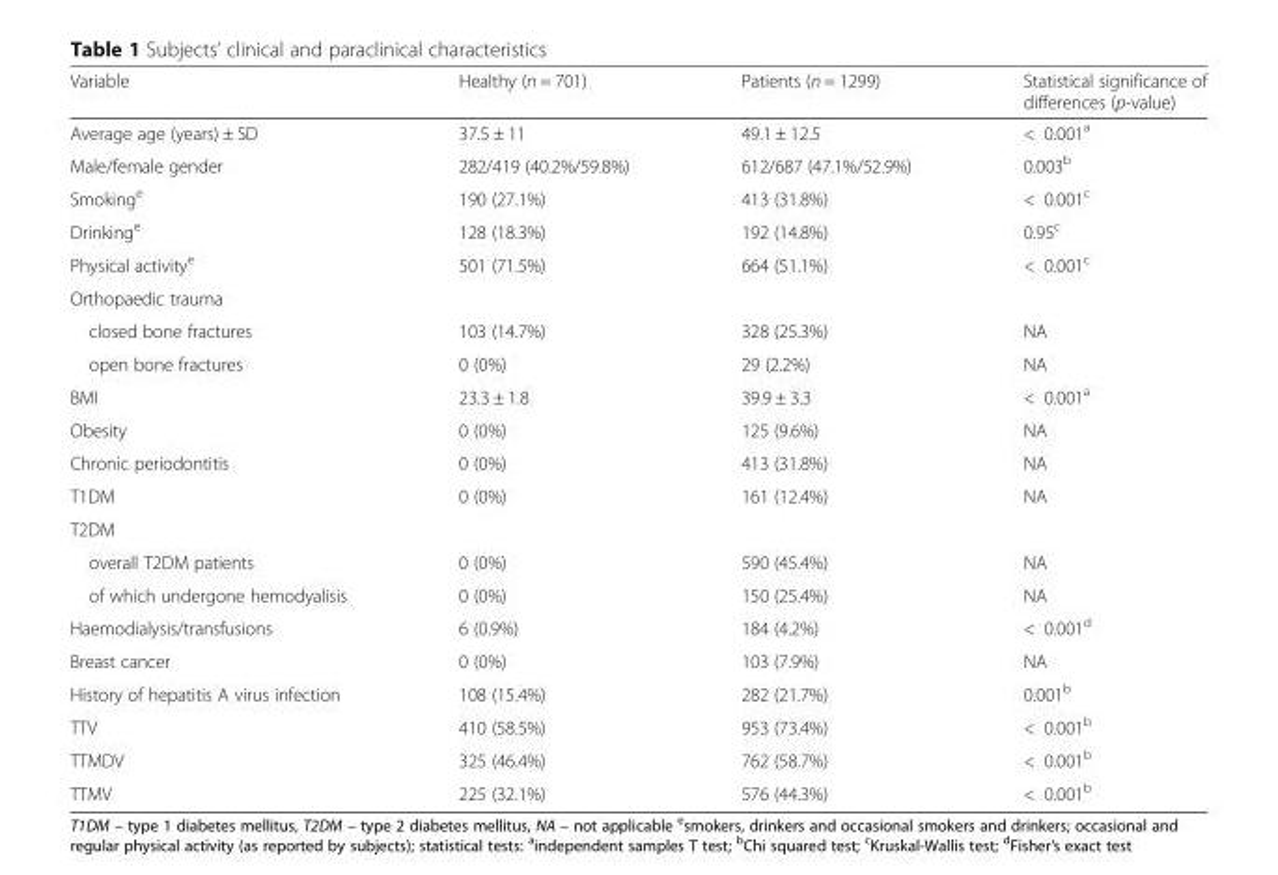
<table><thead><tr><td>Variable</td><td>Healthy (n = 701)</td><td>Patients (n = 1299)</td><td>Statistical significance of differences (p-value)</td></tr></thead><tbody><tr><td>Average age (years) ± SD</td><td>37.5 ± 11</td><td>49.1 ± 12.5</td><td>&lt; 0.001<sup>a</sup></td></tr><tr><td>Male/female gender</td><td>282/419 (40.2%/59.8%)</td><td>612/687 (47.1%/52.9%)</td><td>0.003<sup>b</sup></td></tr><tr><td>Smoking<sup>e</sup></td><td>190 (27.1%)</td><td>413 (31.8%)</td><td>&lt; 0.001<sup>c</sup></td></tr><tr><td>Drinking<sup>e</sup></td><td>128 (18.3%)</td><td>192 (14.8%)</td><td>0.95<sup>c</sup></td></tr><tr><td>Physical activity<sup>e</sup></td><td>501 (71.5%)</td><td>664 (51.1%)</td><td>&lt; 0.001<sup>c</sup></td></tr><tr><td colspan="4">Orthopaedic trauma</td></tr><tr><td>closed bone fractures</td><td>103 (14.7%)</td><td>328 (25.3%)</td><td>NA</td></tr><tr><td>open bone fractures</td><td>0 (0%)</td><td>29 (2.2%)</td><td>NA</td></tr><tr><td>BMI</td><td>23.3 ± 1.8</td><td>39.9 ± 3.3</td><td>&lt; 0.001<sup>a</sup></td></tr><tr><td>Obesity</td><td>0 (0%)</td><td>125 (9.6%)</td><td>NA</td></tr><tr><td>Chronic periodontitis</td><td>0 (0%)</td><td>413 (31.8%)</td><td>NA</td></tr><tr><td>T1DM</td><td>0 (0%)</td><td>161 (12.4%)</td><td>NA</td></tr><tr><td colspan="4">T2DM</td></tr><tr><td>overall T2DM patients</td><td>0 (0%)</td><td>590 (45.4%)</td><td>NA</td></tr><tr><td>of which undergone hemodyalisis</td><td>0 (0%)</td><td>150 (25.4%)</td><td>NA</td></tr><tr><td>Haemodialysis/transfusions</td><td>6 (0.9%)</td><td>184 (4.2%)</td><td>&lt; 0.001<sup>d</sup></td></tr><tr><td>Breast cancer</td><td>0 (0%)</td><td>103 (7.9%)</td><td>NA</td></tr><tr><td>History of hepatitis A virus infection</td><td>108 (15.4%)</td><td>282 (21.7%)</td><td>0.001<sup>b</sup></td></tr><tr><td>TTV</td><td>410 (58.5%)</td><td>953 (73.4%)</td><td>&lt; 0.001<sup>b</sup></td></tr><tr><td>TTMDV</td><td>325 (46.4%)</td><td>762 (58.7%)</td><td>&lt; 0.001<sup>b</sup></td></tr><tr><td>TTMV</td><td>225 (32.1%)</td><td>576 (44.3%)</td><td>&lt; 0.001<sup>b</sup></td></tr></tbody></table>